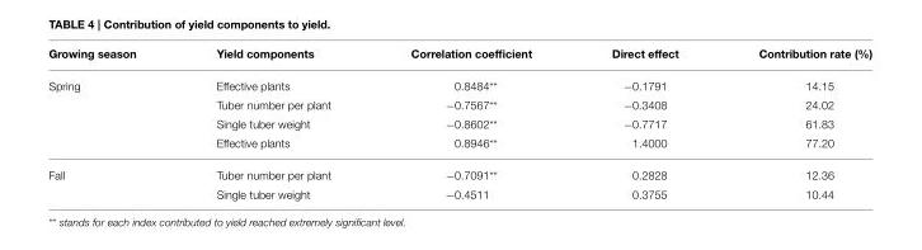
<table><thead><tr><td>Growing season</td><td>Yield components</td><td>Correlation coefficient</td><td>Direct effect</td><td>Contribution rate (%)</td></tr></thead><tbody><tr><td rowspan="4">Spring</td><td>Effective plants</td><td>0.8484**</td><td>−0.1791</td><td>14.15</td></tr><tr><td>Tuber number per plant</td><td>−0.7567**</td><td>−0.3408</td><td>24.02</td></tr><tr><td>Single tuber weight</td><td>−0.8602**</td><td>−0.7717</td><td>61.83</td></tr><tr><td>Effective plants</td><td>0.8946**</td><td>1.4000</td><td>77.20</td></tr><tr><td rowspan="2">Fall</td><td>Tuber number per plant</td><td>−0.7091**</td><td>0.2828</td><td>12.36</td></tr><tr><td>Single tuber weight</td><td>−0.4511</td><td>0.3755</td><td>10.44</td></tr></tbody></table>